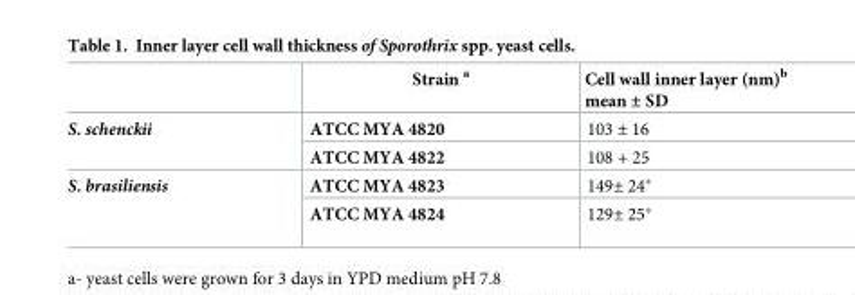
<table><thead><tr><td></td><td>Strain <sup>a</sup></td><td>Cell wall inner layer (nm)<sup>b</sup> mean ± SD</td></tr></thead><tbody><tr><td rowspan="2">S. schenckii</td><td>ATCC MYA 4820</td><td>103 ± 16</td></tr><tr><td>ATCC MYA 4822</td><td>108 + 25</td></tr><tr><td rowspan="2">S. brasiliensis</td><td>ATCC MYA 4823</td><td>149± 24*</td></tr><tr><td>ATCC MYA 4824</td><td>129± 25*</td></tr></tbody></table>